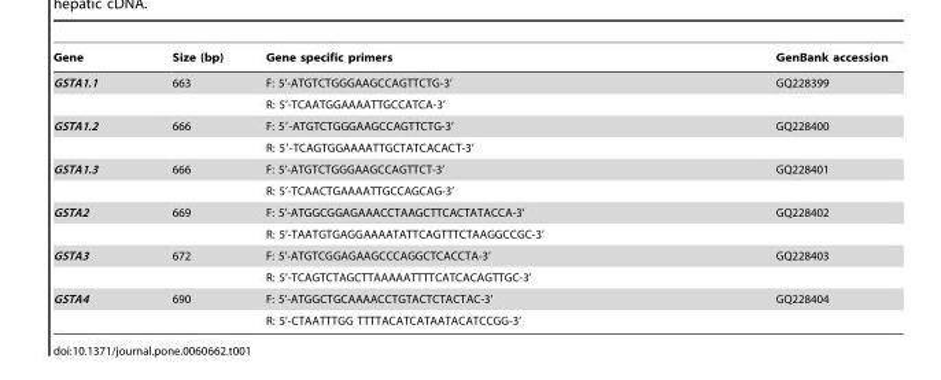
<table><thead><tr><td>Gene</td><td>Size (bp)</td><td>Gene specific primers</td><td>GenBank accession</td></tr></thead><tbody><tr><td rowspan="2">GSTA1.1</td><td>663</td><td>F: 5’-ATGTCTGGGAAGCCAGTTCTG-3’</td><td>GQ228399</td></tr><tr><td></td><td>R: 5’-TCAATGGAAAATTGCCATCA-3’</td><td></td></tr><tr><td rowspan="2">GSTA1.2</td><td>666</td><td>F: 5′-ATGTCTGGGAAGCCAGTTCTG-3’</td><td>GQ228400</td></tr><tr><td></td><td>R: 5′-TCAGTGGAAAATTGCTATCACACT-3’</td><td></td></tr><tr><td rowspan="2">GSTA1.3</td><td>666</td><td>F: 5’-ATGTCTGGGAAGCCAGTTCT-3’</td><td>GQ228401</td></tr><tr><td></td><td>R: 5’-TCAACTGAAAATTGCCAGCAG-3’</td><td></td></tr><tr><td rowspan="2">GSTA2</td><td>669</td><td>F: 5’-ATGGCGGAGAAACCTAAGCTTCACTATACCA-3’</td><td>GQ228402</td></tr><tr><td></td><td>R: 5’-TAATGTGAGGAAAATATTCAGTTTCTAAGGCCGC-3’</td><td></td></tr><tr><td rowspan="2">GSTA3</td><td>672</td><td>F: 5’-ATGTCGGAGAAGCCCAGGCTCACCTA-3’</td><td>GQ228403</td></tr><tr><td></td><td>R: 5’-TCAGTCTAGCTTAAAAATTTTCATCACAGTTGC-3’</td><td></td></tr><tr><td rowspan="2">GSTA4</td><td>690</td><td>F: 5’-ATGGCTGCAAAACCTGTACTCTACTAC-3’</td><td>GQ228404</td></tr><tr><td></td><td>R: 5’-CTAATTTGG TTTTACATCATAATACATCCGG-3’</td><td></td></tr></tbody></table>